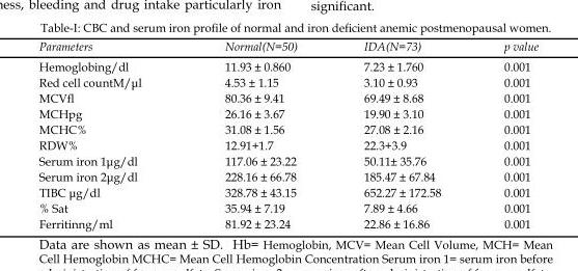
<table><thead><tr><td>Parameters</td><td>Normal(N=50)</td><td>IDA(N=73)</td><td>p value</td></tr></thead><tbody><tr><td>Hemoglobing/dl</td><td>11.93 ± 0.860</td><td>7.23 ± 1.760</td><td>0.001</td></tr><tr><td>Red cell countM/μl</td><td>4.53 ± 1.15</td><td>3.10 ± 0.93</td><td>0.001</td></tr><tr><td>MCVfl</td><td>80.36 ± 9.41</td><td>69.49 ± 8.68</td><td>0.001</td></tr><tr><td>MCHpg</td><td>26.16 ± 3.67</td><td>19.90 ± 3.10</td><td>0.001</td></tr><tr><td>MCHC%</td><td>31.08 ± 1.56</td><td>27.08 ± 2.16</td><td>0.001</td></tr><tr><td>RDW%</td><td>12.91+1.7</td><td>22.3+3.9</td><td>0.001</td></tr><tr><td>Serum iron 1μg/dl</td><td>117.06 ± 23.22</td><td>50.11± 35.76</td><td>0.001</td></tr><tr><td>Serum iron 2μg/dl</td><td>228.16 ± 66.78</td><td>185.47 ± 67.84</td><td>0.001</td></tr><tr><td>TIBC μg/dl</td><td>328.78 ± 43.15</td><td>652.27 ± 172.58</td><td>0.001</td></tr><tr><td>% Sat</td><td>35.94 ± 7.19</td><td>7.89 ± 4.66</td><td>0.001</td></tr><tr><td>Ferritinng/ml</td><td>81.92 ± 23.24</td><td>22.86 ± 16.86</td><td>0.001</td></tr></tbody></table>